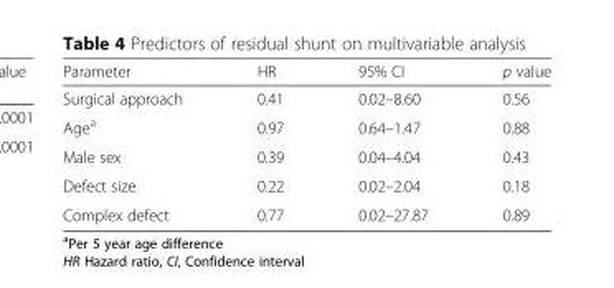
<table><thead><tr><td>Parameter</td><td>HR</td><td>95% CI</td><td>p value</td></tr></thead><tbody><tr><td>Surgical approach</td><td>0.41</td><td>0.02–8.60</td><td>0.56</td></tr><tr><td>Age<sup>a</sup></td><td>0.97</td><td>0.64–1.47</td><td>0.88</td></tr><tr><td>Male sex</td><td>0.39</td><td>0.04–4.04</td><td>0.43</td></tr><tr><td>Defect size</td><td>0.22</td><td>0.02–2.04</td><td>0.18</td></tr><tr><td>Complex defect</td><td>0.77</td><td>0.02–27.87</td><td>0.89</td></tr></tbody></table>